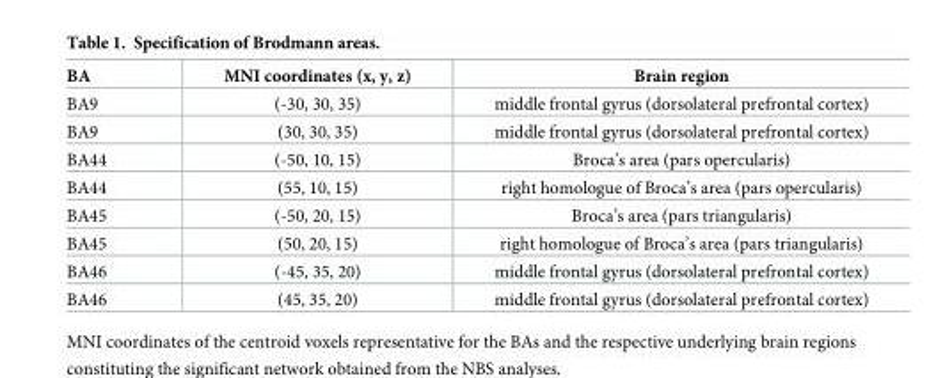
<table><thead><tr><td>BA</td><td>MNI coordinates (x, y, z)</td><td>Brain region</td></tr></thead><tbody><tr><td>BA9</td><td>(-30, 30, 35)</td><td>middle frontal gyrus (dorsolateral prefrontal cortex)</td></tr><tr><td>BA9</td><td>(30, 30, 35)</td><td>middle frontal gyrus (dorsolateral prefrontal cortex)</td></tr><tr><td>BA44</td><td>(-50, 10, 15)</td><td>Broca’s area (pars opercularis)</td></tr><tr><td>BA44</td><td>(55, 10, 15)</td><td>right homologue of Broca’s area (pars opercularis)</td></tr><tr><td>BA45</td><td>(-50, 20, 15)</td><td>Broca’s area (pars triangularis)</td></tr><tr><td>BA45</td><td>(50, 20, 15)</td><td>right homologue of Broca’s area (pars triangularis)</td></tr><tr><td>BA46</td><td>(-45, 35, 20)</td><td>middle frontal gyrus (dorsolateral prefrontal cortex)</td></tr><tr><td>BA46</td><td>(45, 35, 20)</td><td>middle frontal gyrus (dorsolateral prefrontal cortex)</td></tr></tbody></table>